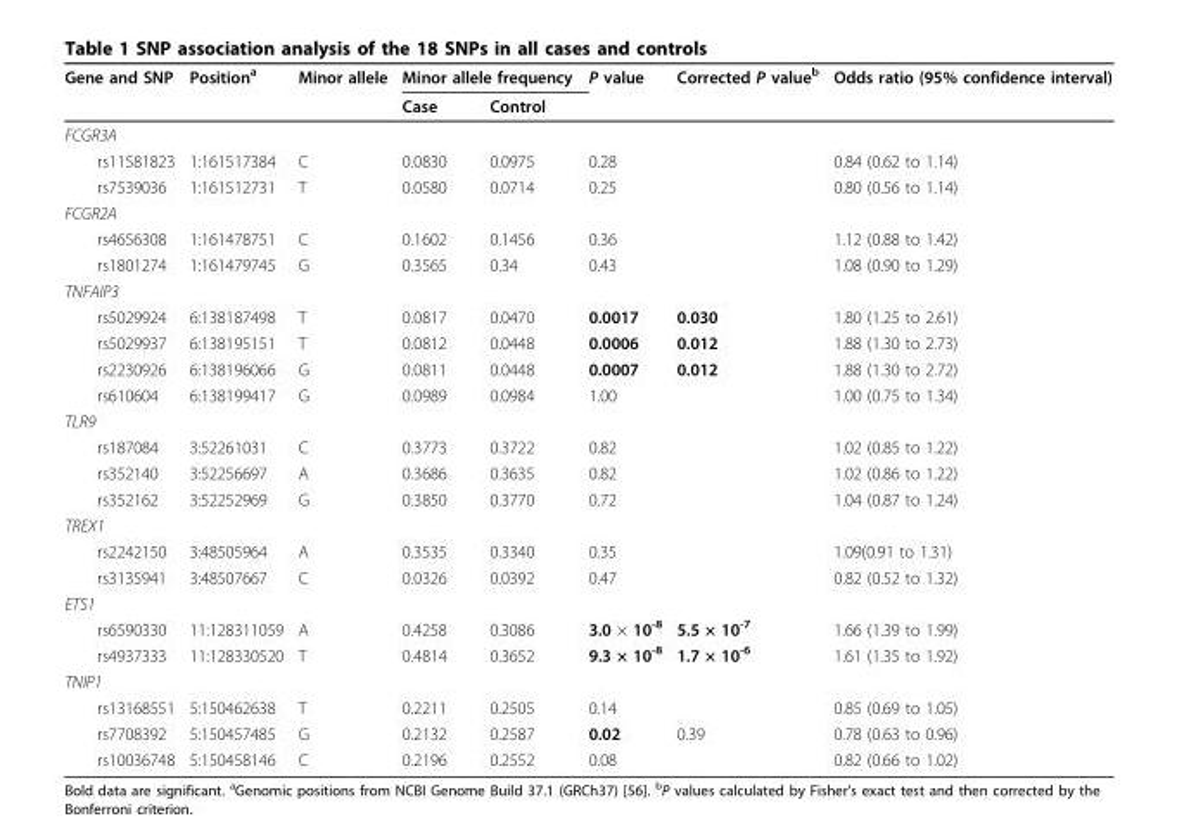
<table><thead><tr><td rowspan="2">Gene and SNP</td><td rowspan="2">Position<sup>a</sup></td><td rowspan="2">Minor allele</td><td colspan="2">Minor allele frequency</td><td rowspan="2">P value</td><td rowspan="2">Corrected P value<sup>b</sup></td><td rowspan="2">Odds ratio (95% confidence interval)</td></tr><tr><td>Case</td><td>Control</td></tr></thead><tbody><tr><td colspan="8">FCGR3A</td></tr><tr><td>rs11581823</td><td>1:161517384</td><td>C</td><td>0.0830</td><td>0.0975</td><td>0.28</td><td></td><td>0.84 (0.62 to 1.14)</td></tr><tr><td>rs7539036</td><td>1:161512731</td><td>T</td><td>0.0580</td><td>0.0714</td><td>0.25</td><td></td><td>0.80 (0.56 to 1.14)</td></tr><tr><td colspan="8">FCGR2A</td></tr><tr><td>rs4656308</td><td>1:161478751</td><td>C</td><td>0.1602</td><td>0.1456</td><td>0.36</td><td></td><td>1.12 (0.88 to 1.42)</td></tr><tr><td>rs1801274</td><td>1:161479745</td><td>G</td><td>0.3565</td><td>0.34</td><td>0.43</td><td></td><td>1.08 (0.90 to 1.29)</td></tr><tr><td colspan="8">TNFAIP3</td></tr><tr><td>rs5029924</td><td>6:138187498</td><td>T</td><td>0.0817</td><td>0.0470</td><td>0.0017</td><td>0.030</td><td>1.80 (1.25 to 2.61)</td></tr><tr><td>rs5029937</td><td>6:138195151</td><td>T</td><td>0.0812</td><td>0.0448</td><td>0.0006</td><td>0.012</td><td>1.88 (1.30 to 2.73)</td></tr><tr><td>rs2230926</td><td>6:138196066</td><td>G</td><td>0.0811</td><td>0.0448</td><td>0.0007</td><td>0.012</td><td>1.88 (1.30 to 2.72)</td></tr><tr><td>rs610604</td><td>6:138199417</td><td>G</td><td>0.0989</td><td>0.0984</td><td>1.00</td><td></td><td>1.00 (0.75 to 1.34)</td></tr><tr><td colspan="8">TLR9</td></tr><tr><td>rs187084</td><td>3:52261031</td><td>C</td><td>0.3773</td><td>0.3722</td><td>0.82</td><td></td><td>1.02 (0.85 to 1.22)</td></tr><tr><td>rs352140</td><td>3:52256697</td><td>A</td><td>0.3686</td><td>0.3635</td><td>0.82</td><td></td><td>1.02 (0.86 to 1.22)</td></tr><tr><td>rs352162</td><td>3:52252969</td><td>G</td><td>0.3850</td><td>0.3770</td><td>0.72</td><td></td><td>1.04 (0.87 to 1.24)</td></tr><tr><td colspan="8">TREX1</td></tr><tr><td>rs2242150</td><td>3:48505964</td><td>A</td><td>0.3535</td><td>0.3340</td><td>0.35</td><td></td><td>1.09(0.91 to 1.31)</td></tr><tr><td>rs3135941</td><td>3:48507667</td><td>C</td><td>0.0326</td><td>0.0392</td><td>0.47</td><td></td><td>0.82 (0.52 to 1.32)</td></tr><tr><td colspan="8">ETS1</td></tr><tr><td>rs6590330</td><td>11:128311059</td><td>A</td><td>0.4258</td><td>0.3086</td><td>3.0 × 10<sup>-8</sup></td><td>5.5 × 10<sup>-7</sup></td><td>1.66 (1.39 to 1.99)</td></tr><tr><td>rs4937333</td><td>11:128330520</td><td>T</td><td>0.4814</td><td>0.3652</td><td>9.3 × 10<sup>-8</sup></td><td>1.7 × 10<sup>-6</sup></td><td>1.61 (1.35 to 1.92)</td></tr><tr><td colspan="8">TNIP1</td></tr><tr><td>rs13168551</td><td>5:150462638</td><td>T</td><td>0.2211</td><td>0.2505</td><td>0.14</td><td></td><td>0.85 (0.69 to 1.05)</td></tr><tr><td>rs7708392</td><td>5:150457485</td><td>G</td><td>0.2132</td><td>0.2587</td><td>0.02</td><td>0.39</td><td>0.78 (0.63 to 0.96)</td></tr><tr><td>rs10036748</td><td>5:150458146</td><td>C</td><td>0.2196</td><td>0.2552</td><td>0.08</td><td></td><td>0.82 (0.66 to 1.02)</td></tr></tbody></table>